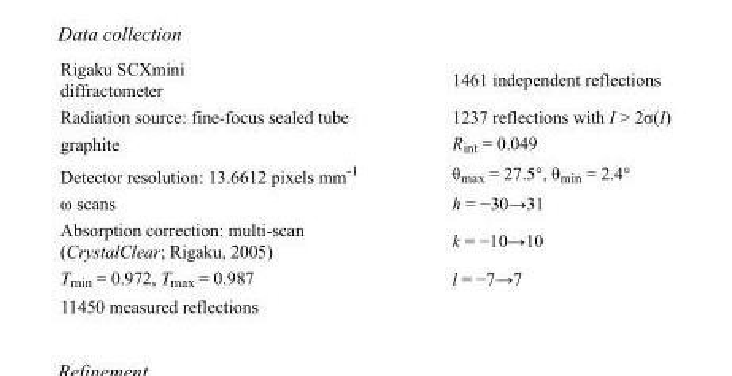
<table><tbody><tr><td>Rigaku SCXmini diffractometer</td><td>1461 independent reflections</td></tr><tr><td>Radiation source: fine-focus sealed tube</td><td>1237 reflections with I &gt; 2σ(I)</td></tr><tr><td>graphite</td><td>R<sub>int</sub> = 0.049</td></tr><tr><td>Detector resolution: 13.6612 pixels mm<sup>-1</sup></td><td>θ<sub>max</sub> = 27.5°, θ<sub>min</sub> = 2.4°</td></tr><tr><td>ω scans</td><td>h = −30→31</td></tr><tr><td>Absorption correction: multi-scan (CrystalClear; Rigaku, 2005)</td><td>k = −10→10</td></tr><tr><td>T<sub>min</sub> = 0.972, T<sub>max</sub> = 0.987</td><td>l = −7→7</td></tr><tr><td>11450 measured reflections</td><td></td></tr></tbody></table>